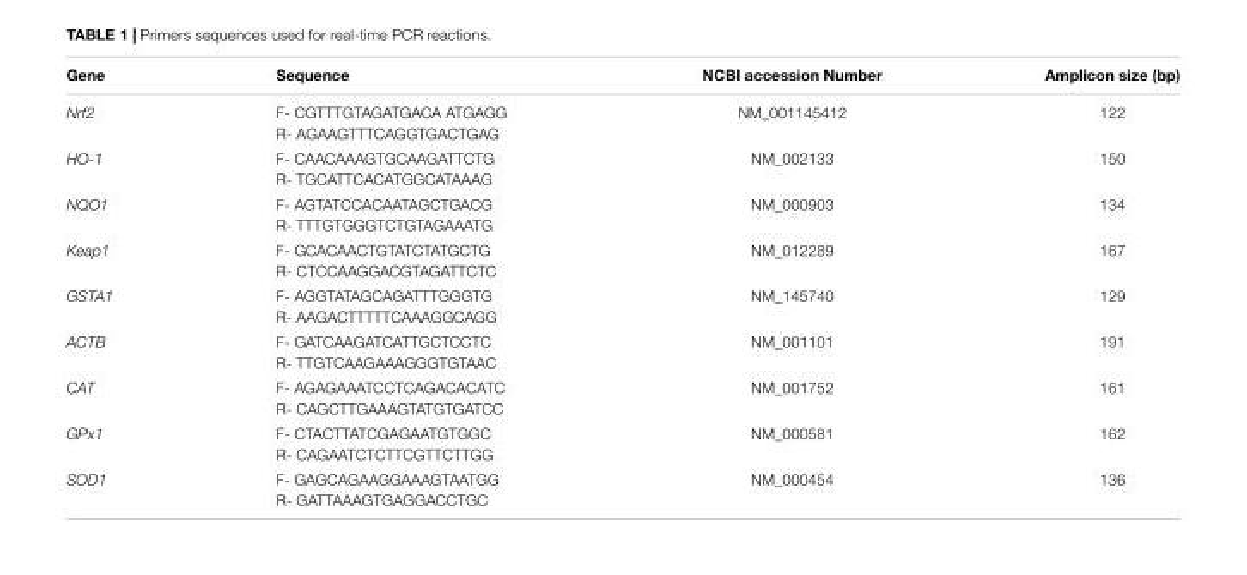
<table><thead><tr><td>Gene</td><td>Sequence</td><td>NCBI accession Number</td><td>Amplicon size (bp)</td></tr></thead><tbody><tr><td rowspan="2">Nrf2</td><td>F- CGTTTGTAGATGACA ATGAGG</td><td>NM_001145412</td><td>122</td></tr><tr><td>R- AGAAGTTTCAGGTGACTGAG</td><td></td><td></td></tr><tr><td rowspan="2">HO-1</td><td>F- CAACAAAGTGCAAGATTCTG</td><td>NM_002133</td><td>150</td></tr><tr><td>R- TGCATTCACATGGCATAAAG</td><td></td><td></td></tr><tr><td rowspan="2">NQO1</td><td>F- AGTATCCACAATAGCTGACG</td><td>NM_000903</td><td>134</td></tr><tr><td>R- TTTGTGGGTCTGTAGAAATG</td><td></td><td></td></tr><tr><td rowspan="2">Keap1</td><td>F- GCACAACTGTATCTATGCTG</td><td>NM_012289</td><td>167</td></tr><tr><td>R- CTCCAAGGACGTAGATTCTC</td><td></td><td></td></tr><tr><td rowspan="2">GSTA1</td><td>F- AGGTATAGCAGATTTGGGTG</td><td>NM_145740</td><td>129</td></tr><tr><td>R- AAGACTTTTTCAAAGGCAGG</td><td></td><td></td></tr><tr><td rowspan="2">ACTB</td><td>F- GATCAAGATCATTGCTCCTC</td><td>NM_001101</td><td>191</td></tr><tr><td>R- TTGTCAAGAAAGGGTGTAAC</td><td></td><td></td></tr><tr><td rowspan="2">CAT</td><td>F- AGAGAAATCCTCAGACACATC</td><td>NM_001752</td><td>161</td></tr><tr><td>R- CAGCTTGAAAGTATGTGATCC</td><td></td><td></td></tr><tr><td rowspan="2">GPx1</td><td>F- CTACTTATCGAGAATGTGGC</td><td>NM_000581</td><td>162</td></tr><tr><td>R- CAGAATCTCTTCGTTCTTGG</td><td></td><td></td></tr><tr><td rowspan="2">SOD1</td><td>F- GAGCAGAAGGAAAGTAATGG</td><td>NM_000454</td><td>136</td></tr><tr><td>R- GATTAAAGTGAGGACCTGC</td><td></td><td></td></tr></tbody></table>